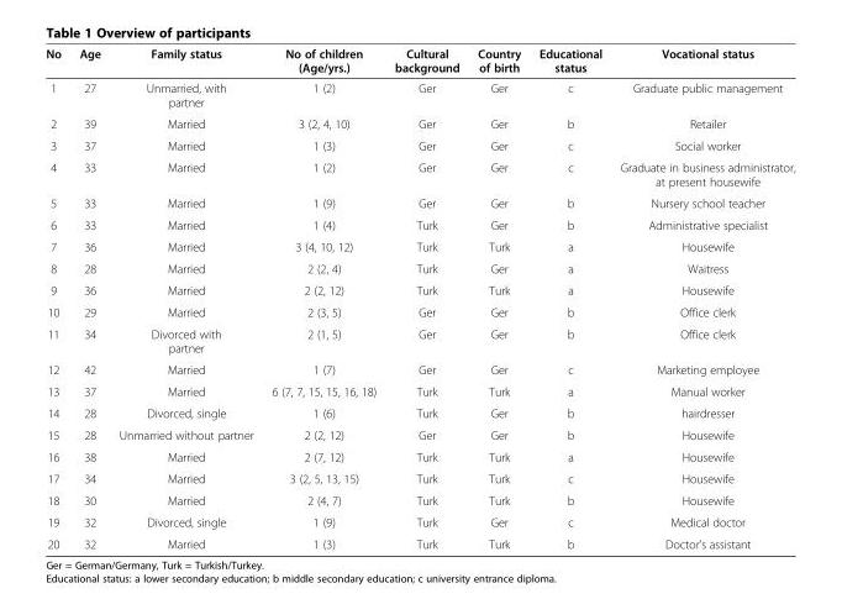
<table><thead><tr><td>No</td><td>Age</td><td>Family status</td><td>No of children (Age/yrs.)</td><td>Cultural background</td><td>Country of birth</td><td>Educational status</td><td>Vocational status</td></tr></thead><tbody><tr><td>1</td><td>27</td><td>Unmarried, with partner</td><td>1 (2)</td><td>Ger</td><td>Ger</td><td>c</td><td>Graduate public management</td></tr><tr><td>2</td><td>39</td><td>Married</td><td>3 (2, 4, 10)</td><td>Ger</td><td>Ger</td><td>b</td><td>Retailer</td></tr><tr><td>3</td><td>37</td><td>Married</td><td>1 (3)</td><td>Ger</td><td>Ger</td><td>c</td><td>Social worker</td></tr><tr><td>4</td><td>33</td><td>Married</td><td>1 (2)</td><td>Ger</td><td>Ger</td><td>c</td><td>Graduate in business administrator, at present housewife</td></tr><tr><td>5</td><td>33</td><td>Married</td><td>1 (9)</td><td>Ger</td><td>Ger</td><td>b</td><td>Nursery school teacher</td></tr><tr><td>6</td><td>33</td><td>Married</td><td>1 (4)</td><td>Turk</td><td>Ger</td><td>b</td><td>Administrative specialist</td></tr><tr><td>7</td><td>36</td><td>Married</td><td>3 (4, 10, 12)</td><td>Turk</td><td>Turk</td><td>a</td><td>Housewife</td></tr><tr><td>8</td><td>28</td><td>Married</td><td>2 (2, 4)</td><td>Turk</td><td>Ger</td><td>a</td><td>Waitress</td></tr><tr><td>9</td><td>36</td><td>Married</td><td>2 (2, 12)</td><td>Turk</td><td>Turk</td><td>a</td><td>Housewife</td></tr><tr><td>10</td><td>29</td><td>Married</td><td>2 (3, 5)</td><td>Ger</td><td>Ger</td><td>b</td><td>Office clerk</td></tr><tr><td>11</td><td>34</td><td>Divorced with partner</td><td>2 (1, 5)</td><td>Ger</td><td>Ger</td><td>b</td><td>Office clerk</td></tr><tr><td>12</td><td>42</td><td>Married</td><td>1 (7)</td><td>Ger</td><td>Ger</td><td>c</td><td>Marketing employee</td></tr><tr><td>13</td><td>37</td><td>Married</td><td>6 (7, 7, 15, 15, 16, 18)</td><td>Turk</td><td>Turk</td><td>a</td><td>Manual worker</td></tr><tr><td>14</td><td>28</td><td>Divorced, single</td><td>1 (6)</td><td>Turk</td><td>Ger</td><td>b</td><td>hairdresser</td></tr><tr><td>15</td><td>28</td><td>Unmarried without partner</td><td>2 (2, 12)</td><td>Ger</td><td>Ger</td><td>b</td><td>Housewife</td></tr><tr><td>16</td><td>38</td><td>Married</td><td>2 (7, 12)</td><td>Turk</td><td>Turk</td><td>a</td><td>Housewife</td></tr><tr><td>17</td><td>34</td><td>Married</td><td>3 (2, 5, 13, 15)</td><td>Turk</td><td>Turk</td><td>c</td><td>Housewife</td></tr><tr><td>18</td><td>30</td><td>Married</td><td>2 (4, 7)</td><td>Turk</td><td>Turk</td><td>b</td><td>Housewife</td></tr><tr><td>19</td><td>32</td><td>Divorced, single</td><td>1 (9)</td><td>Turk</td><td>Ger</td><td>c</td><td>Medical doctor</td></tr><tr><td>20</td><td>32</td><td>Married</td><td>1 (3)</td><td>Turk</td><td>Turk</td><td>b</td><td>Doctor’s assistant</td></tr></tbody></table>